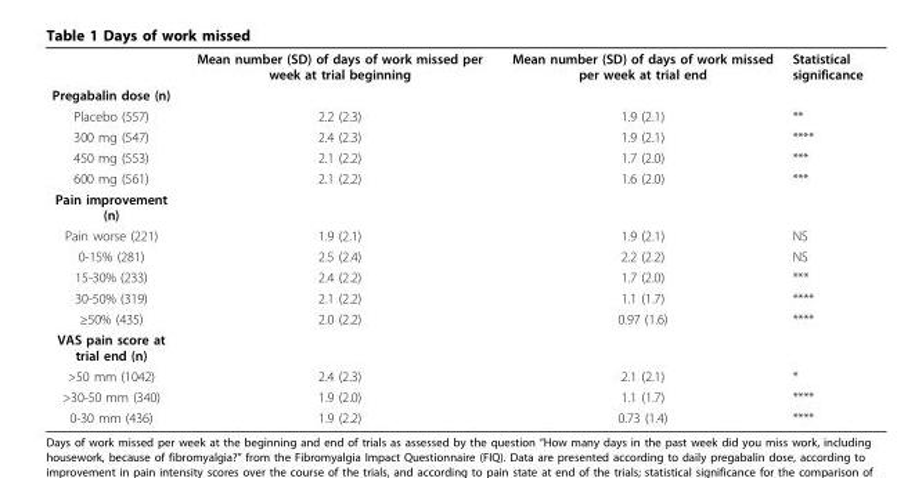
<table><thead><tr><td></td><td>Mean number (SD) of days of work missed per week at trial beginning</td><td>Mean number (SD) of days of work missed per week at trial end</td><td>Statistical significance</td></tr></thead><tbody><tr><td colspan="4">Pregabalin dose (n)</td></tr><tr><td>Placebo (557)</td><td>2.2 (2.3)</td><td>1.9 (2.1)</td><td>**</td></tr><tr><td>300 mg (547)</td><td>2.4 (2.3)</td><td>1.9 (2.1)</td><td>****</td></tr><tr><td>450 mg (553)</td><td>2.1 (2.2)</td><td>1.7 (2.0)</td><td>***</td></tr><tr><td>600 mg (561)</td><td>2.1 (2.2)</td><td>1.6 (2.0)</td><td>***</td></tr><tr><td colspan="4">Pain improvement (n)</td></tr><tr><td>Pain worse (221)</td><td>1.9 (2.1)</td><td>1.9 (2.1)</td><td>NS</td></tr><tr><td>0-15% (281)</td><td>2.5 (2.4)</td><td>2.2 (2.2)</td><td>NS</td></tr><tr><td>15-30% (233)</td><td>2.4 (2.2)</td><td>1.7 (2.0)</td><td>***</td></tr><tr><td>30-50% (319)</td><td>2.1 (2.2)</td><td>1.1 (1.7)</td><td>****</td></tr><tr><td>≥50% (435)</td><td>2.0 (2.2)</td><td>0.97 (1.6)</td><td>****</td></tr><tr><td colspan="4">VAS pain score at trial end (n)</td></tr><tr><td>&gt;50 mm (1042)</td><td>2.4 (2.3)</td><td>2.1 (2.1)</td><td>*</td></tr><tr><td>&gt;30-50 mm (340)</td><td>1.9 (2.0)</td><td>1.1 (1.7)</td><td>****</td></tr><tr><td>0-30 mm (436)</td><td>1.9 (2.2)</td><td>0.73 (1.4)</td><td>****</td></tr></tbody></table>